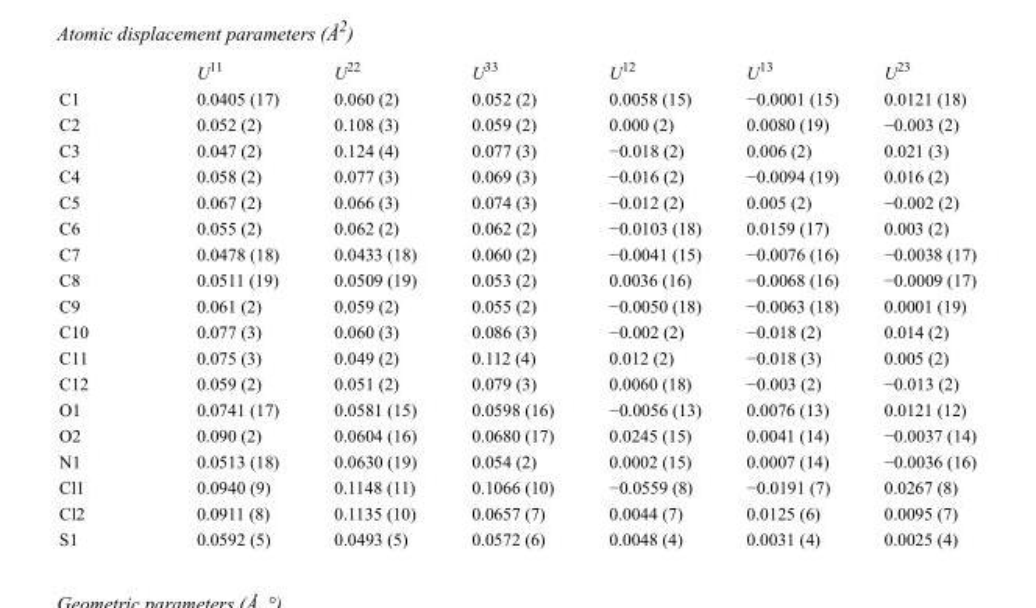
<table><thead><tr><td></td><td>U<sup>11</sup></td><td>U<sup>22</sup></td><td>U<sup>33</sup></td><td>U<sup>12</sup></td><td>U<sup>13</sup></td><td>U<sup>23</sup></td></tr></thead><tbody><tr><td>C1</td><td>0.0405 (17)</td><td>0.060 (2)</td><td>0.052 (2)</td><td>0.0058 (15)</td><td>−0.0001 (15)</td><td>0.0121 (18)</td></tr><tr><td>C2</td><td>0.052 (2)</td><td>0.108 (3)</td><td>0.059 (2)</td><td>0.000 (2)</td><td>0.0080 (19)</td><td>−0.003 (2)</td></tr><tr><td>C3</td><td>0.047 (2)</td><td>0.124 (4)</td><td>0.077 (3)</td><td>−0.018 (2)</td><td>0.006 (2)</td><td>0.021 (3)</td></tr><tr><td>C4</td><td>0.058 (2)</td><td>0.077 (3)</td><td>0.069 (3)</td><td>−0.016 (2)</td><td>−0.0094 (19)</td><td>0.016 (2)</td></tr><tr><td>C5</td><td>0.067 (2)</td><td>0.066 (3)</td><td>0.074 (3)</td><td>−0.012 (2)</td><td>0.005 (2)</td><td>−0.002 (2)</td></tr><tr><td>C6</td><td>0.055 (2)</td><td>0.062 (2)</td><td>0.062 (2)</td><td>−0.0103 (18)</td><td>0.0159 (17)</td><td>0.003 (2)</td></tr><tr><td>C7</td><td>0.0478 (18)</td><td>0.0433 (18)</td><td>0.060 (2)</td><td>−0.0041 (15)</td><td>−0.0076 (16)</td><td>−0.0038 (17)</td></tr><tr><td>C8</td><td>0.0511 (19)</td><td>0.0509 (19)</td><td>0.053 (2)</td><td>0.0036 (16)</td><td>−0.0068 (16)</td><td>−0.0009 (17)</td></tr><tr><td>C9</td><td>0.061 (2)</td><td>0.059 (2)</td><td>0.055 (2)</td><td>−0.0050 (18)</td><td>−0.0063 (18)</td><td>0.0001 (19)</td></tr><tr><td>C10</td><td>0.077 (3)</td><td>0.060 (3)</td><td>0.086 (3)</td><td>−0.002 (2)</td><td>−0.018 (2)</td><td>0.014 (2)</td></tr><tr><td>C11</td><td>0.075 (3)</td><td>0.049 (2)</td><td>0.112 (4)</td><td>0.012 (2)</td><td>−0.018 (3)</td><td>0.005 (2)</td></tr><tr><td>C12</td><td>0.059 (2)</td><td>0.051 (2)</td><td>0.079 (3)</td><td>0.0060 (18)</td><td>−0.003 (2)</td><td>−0.013 (2)</td></tr><tr><td>O1</td><td>0.0741 (17)</td><td>0.0581 (15)</td><td>0.0598 (16)</td><td>−0.0056 (13)</td><td>0.0076 (13)</td><td>0.0121 (12)</td></tr><tr><td>O2</td><td>0.090 (2)</td><td>0.0604 (16)</td><td>0.0680 (17)</td><td>0.0245 (15)</td><td>0.0041 (14)</td><td>−0.0037 (14)</td></tr><tr><td>N1</td><td>0.0513 (18)</td><td>0.0630 (19)</td><td>0.054 (2)</td><td>0.0002 (15)</td><td>0.0007 (14)</td><td>−0.0036 (16)</td></tr><tr><td>Cl1</td><td>0.0940 (9)</td><td>0.1148 (11)</td><td>0.1066 (10)</td><td>−0.0559 (8)</td><td>−0.0191 (7)</td><td>0.0267 (8)</td></tr><tr><td>Cl2</td><td>0.0911 (8)</td><td>0.1135 (10)</td><td>0.0657 (7)</td><td>0.0044 (7)</td><td>0.0125 (6)</td><td>0.0095 (7)</td></tr><tr><td>S1</td><td>0.0592 (5)</td><td>0.0493 (5)</td><td>0.0572 (6)</td><td>0.0048 (4)</td><td>0.0031 (4)</td><td>0.0025 (4)</td></tr></tbody></table>